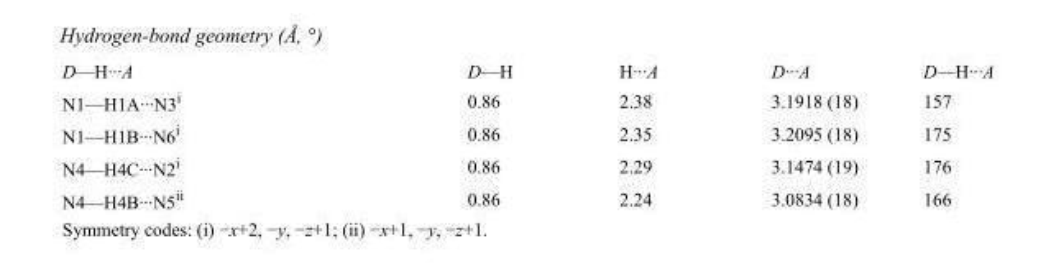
<table><tbody><tr><td>D—H···A</td><td>D—H</td><td>H···A</td><td>D···A</td><td>D—H···A</td></tr><tr><td>N1—H1A···N3<sup>i</sup></td><td>0.86</td><td>2.38</td><td>3.1918 (18)</td><td>157</td></tr><tr><td>N1—H1B···N6<sup>i</sup></td><td>0.86</td><td>2.35</td><td>3.2095 (18)</td><td>175</td></tr><tr><td>N4—H4C···N2<sup>i</sup></td><td>0.86</td><td>2.29</td><td>3.1474 (19)</td><td>176</td></tr><tr><td>N4—H4B···N5<sup>ii</sup></td><td>0.86</td><td>2.24</td><td>3.0834 (18)</td><td>166</td></tr></tbody></table>